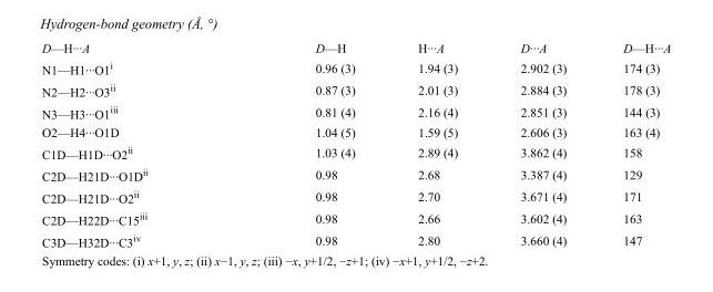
<table><tbody><tr><td>D—H···A</td><td>D—H</td><td>H···A</td><td>D···A</td><td>D—H···A</td></tr><tr><td>N1—H1···O1<sup>i</sup></td><td>0.96 (3)</td><td>1.94 (3)</td><td>2.902 (3)</td><td>174 (3)</td></tr><tr><td>N2—H2···O3<sup>ii</sup></td><td>0.87 (3)</td><td>2.01 (3)</td><td>2.884 (3)</td><td>178 (3)</td></tr><tr><td>N3—H3···O1<sup>iii</sup></td><td>0.81 (4)</td><td>2.16 (4)</td><td>2.851 (3)</td><td>144 (3)</td></tr><tr><td>O2—H4···O1D</td><td>1.04 (5)</td><td>1.59 (5)</td><td>2.606 (3)</td><td>163 (4)</td></tr><tr><td>C1D—H1D···O2<sup>ii</sup></td><td>1.03 (4)</td><td>2.89 (4)</td><td>3.862 (4)</td><td>158</td></tr><tr><td>C2D—H21D···O1D<sup>ii</sup></td><td>0.98</td><td>2.68</td><td>3.387 (4)</td><td>129</td></tr><tr><td>C2D—H21D···O2<sup>ii</sup></td><td>0.98</td><td>2.70</td><td>3.671 (4)</td><td>171</td></tr><tr><td>C2D—H22D···C15<sup>iii</sup></td><td>0.98</td><td>2.66</td><td>3.602 (4)</td><td>163</td></tr><tr><td>C3D—H32D···C3<sup>iv</sup></td><td>0.98</td><td>2.80</td><td>3.660 (4)</td><td>147</td></tr></tbody></table>